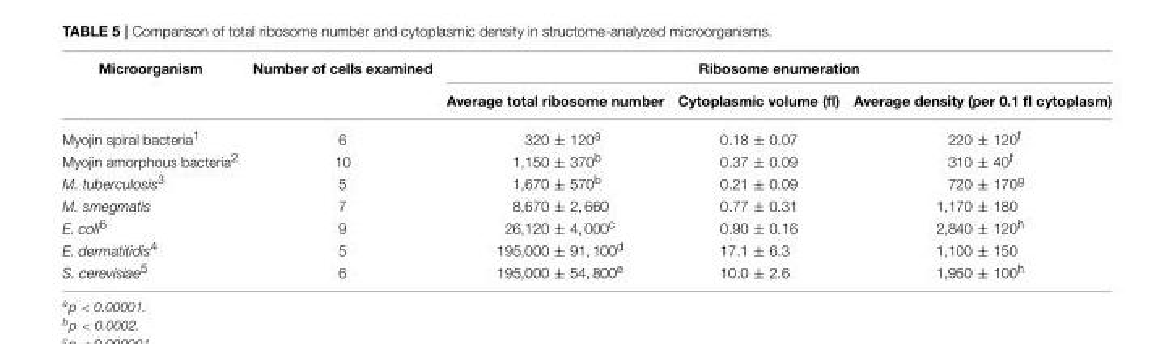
<table><thead><tr><td rowspan="2">Microorganism</td><td rowspan="2">Number of cells examined</td><td colspan="3">Ribosome enumeration</td></tr><tr><td>Average total ribosome number</td><td>Cytoplasmic volume (fl)</td><td>Average density (per 0.1 fl cytoplasm)</td></tr></thead><tbody><tr><td>Myojin spiral bacteria<sup>1</sup></td><td>6</td><td>320 ± 120<sup>a</sup></td><td>0.18 ± 0.07</td><td>220 ± 120<sup>f</sup></td></tr><tr><td>Myojin amorphous bacteria<sup>2</sup></td><td>10</td><td>1,150 ± 370<sup>b</sup></td><td>0.37 ± 0.09</td><td>310 ± 40<sup>f</sup></td></tr><tr><td>M. tuberculosis<sup>3</sup></td><td>5</td><td>1,670 ± 570<sup>b</sup></td><td>0.21 ± 0.09</td><td>720 ± 170<sup>g</sup></td></tr><tr><td>M. smegmatis</td><td>7</td><td>8,670 ± 2, 660</td><td>0.77 ± 0.31</td><td>1,170 ± 180</td></tr><tr><td>E. coli<sup>6</sup></td><td>9</td><td>26,120 ± 4, 000<sup>c</sup></td><td>0.90 ± 0.16</td><td>2,840 ± 120<sup>h</sup></td></tr><tr><td>E. dermatitidis<sup>4</sup></td><td>5</td><td>195,000 ± 91, 100<sup>d</sup></td><td>17.1 ± 6.3</td><td>1,100 ± 150</td></tr><tr><td>S. cerevisiae<sup>5</sup></td><td>6</td><td>195,000 ± 54, 800<sup>e</sup></td><td>10.0 ± 2.6</td><td>1,950 ± 100<sup>h</sup></td></tr></tbody></table>